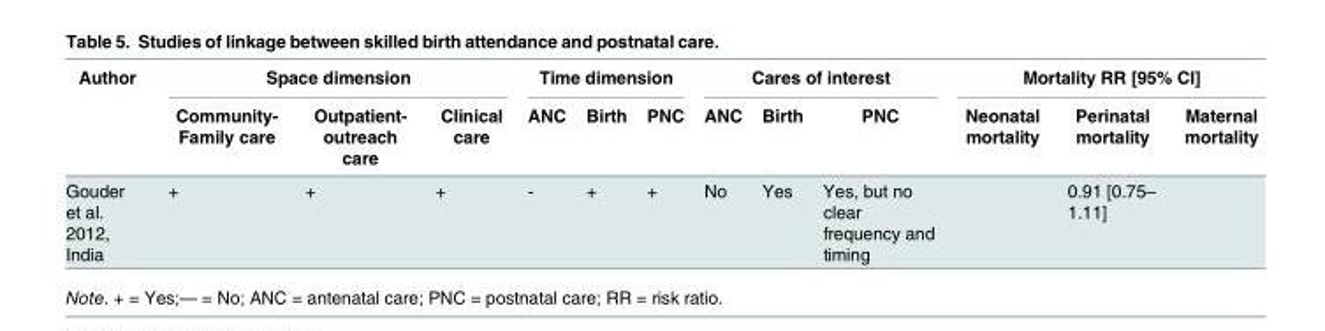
<table><thead><tr><td rowspan="2">Author</td><td colspan="3">Space dimension</td><td colspan="3">Time dimension</td><td colspan="3">Cares of interest</td><td colspan="3">Mortality RR [95% CI]</td></tr><tr><td>Community- Family care</td><td>Outpatient- outreach care</td><td>Clinical care</td><td>ANC</td><td>Birth</td><td>PNC</td><td>ANC</td><td>Birth</td><td>PNC</td><td>Neonatal mortality</td><td>Perinatal mortality</td><td>Maternal mortality</td></tr></thead><tbody><tr><td>Gouder et al. 2012, India</td><td>+</td><td>+</td><td>+</td><td>-</td><td>+</td><td>+</td><td>No</td><td>Yes</td><td>Yes, but no clear frequency and timing</td><td></td><td>0.91 [0.75– 1.11]</td><td></td></tr></tbody></table>